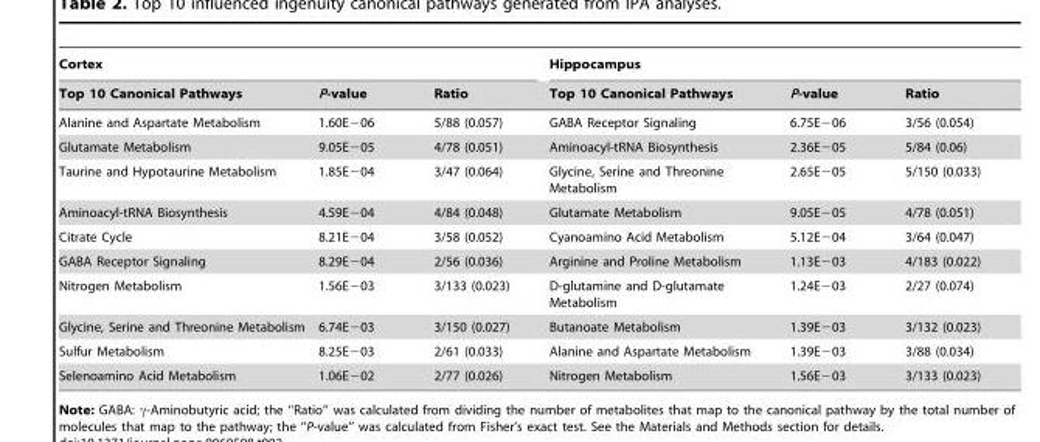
<table><thead><tr><td colspan="3">Cortex</td><td colspan="3">Hippocampus</td></tr><tr><td>Top 10 Canonical Pathways</td><td>P-value</td><td>Ratio</td><td>Top 10 Canonical Pathways</td><td>P-value</td><td>Ratio</td></tr></thead><tbody><tr><td>Alanine and Aspartate Metabolism</td><td>1.60E−06</td><td>5/88 (0.057)</td><td>GABA Receptor Signaling</td><td>6.75E−06</td><td>3/56 (0.054)</td></tr><tr><td>Glutamate Metabolism</td><td>9.05E−05</td><td>4/78 (0.051)</td><td>Aminoacyl-tRNA Biosynthesis</td><td>2.36E−05</td><td>5/84 (0.06)</td></tr><tr><td>Taurine and Hypotaurine Metabolism</td><td>1.85E−04</td><td>3/47 (0.064)</td><td>Glycine, Serine and Threonine Metabolism</td><td>2.65E−05</td><td>5/150 (0.033)</td></tr><tr><td>Aminoacyl-tRNA Biosynthesis</td><td>4.59E−04</td><td>4/84 (0.048)</td><td>Glutamate Metabolism</td><td>9.05E−05</td><td>4/78 (0.051)</td></tr><tr><td>Citrate Cycle</td><td>8.21E−04</td><td>3/58 (0.052)</td><td>Cyanoamino Acid Metabolism</td><td>5.12E−04</td><td>3/64 (0.047)</td></tr><tr><td>GABA Receptor Signaling</td><td>8.29E−04</td><td>2/56 (0.036)</td><td>Arginine and Proline Metabolism</td><td>1.13E−03</td><td>4/183 (0.022)</td></tr><tr><td>Nitrogen Metabolism</td><td>1.56E−03</td><td>3/133 (0.023)</td><td>D-glutamine and D-glutamate Metabolism</td><td>1.24E−03</td><td>2/27 (0.074)</td></tr><tr><td>Glycine, Serine and Threonine Metabolism</td><td>6.74E−03</td><td>3/150 (0.027)</td><td>Butanoate Metabolism</td><td>1.39E−03</td><td>3/132 (0.023)</td></tr><tr><td>Sulfur Metabolism</td><td>8.25E−03</td><td>2/61 (0.033)</td><td>Alanine and Aspartate Metabolism</td><td>1.39E−03</td><td>3/88 (0.034)</td></tr><tr><td>Selenoamino Acid Metabolism</td><td>1.06E−02</td><td>2/77 (0.026)</td><td>Nitrogen Metabolism</td><td>1.56E−03</td><td>3/133 (0.023)</td></tr></tbody></table>